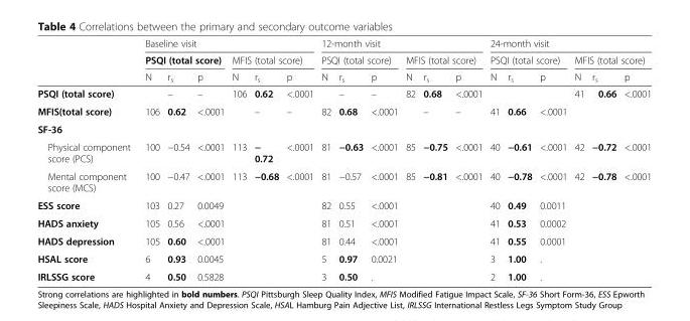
<table><thead><tr><td rowspan="3"></td><td colspan="6">Baseline visit</td><td colspan="6">12-month visit</td><td colspan="6">24-month visit</td></tr><tr><td colspan="3">PSQI (total score)</td><td colspan="3">MFIS (total score)</td><td colspan="3">PSQI (total score)</td><td colspan="3">MFIS (total score)</td><td colspan="3">PSQI (total score)</td><td colspan="3">MFIS (total score)</td></tr><tr><td>N</td><td>r<sub>s</sub></td><td>p</td><td>N</td><td>r<sub>s</sub></td><td>p</td><td>N</td><td>r<sub>s</sub></td><td>p</td><td>N</td><td>r<sub>s</sub></td><td>p</td><td>N</td><td>r<sub>s</sub></td><td>p</td><td>N</td><td>r<sub>s</sub></td><td>p</td></tr></thead><tbody><tr><td>PSQI (total score)</td><td></td><td>–</td><td>–</td><td>106</td><td>0.62</td><td>&lt;.0001</td><td></td><td>–</td><td>–</td><td>82</td><td>0.68</td><td>&lt;.0001</td><td></td><td></td><td></td><td>41</td><td>0.66</td><td>&lt;.0001</td></tr><tr><td>MFIS(total score)</td><td>106</td><td>0.62</td><td>&lt;.0001</td><td></td><td>–</td><td>–</td><td>82</td><td>0.68</td><td>&lt;.0001</td><td></td><td>–</td><td>–</td><td>41</td><td>0.66</td><td>&lt;.0001</td><td></td><td></td><td></td></tr><tr><td colspan="19">SF-36</td></tr><tr><td>Physical component score (PCS)</td><td>100</td><td>−0.54</td><td>&lt;.0001</td><td>113</td><td>− 0.72</td><td>&lt;.0001</td><td>81</td><td>−0.63</td><td>&lt;.0001</td><td>85</td><td>−0.75</td><td>&lt;.0001</td><td>40</td><td>−0.61</td><td>&lt;.0001</td><td>42</td><td>−0.72</td><td>&lt;.0001</td></tr><tr><td>Mental component score (MCS)</td><td>100</td><td>−0.47</td><td>&lt;.0001</td><td>113</td><td>−0.68</td><td>&lt;.0001</td><td>81</td><td>−0.57</td><td>&lt;.0001</td><td>85</td><td>−0.81</td><td>&lt;.0001</td><td>40</td><td>−0.78</td><td>&lt;.0001</td><td>42</td><td>−0.78</td><td>&lt;.0001</td></tr><tr><td>ESS score</td><td>103</td><td>0.27</td><td>0.0049</td><td></td><td></td><td></td><td>82</td><td>0.55</td><td>&lt;.0001</td><td></td><td></td><td></td><td>40</td><td>0.49</td><td>0.0011</td><td></td><td></td><td></td></tr><tr><td>HADS anxiety</td><td>105</td><td>0.56</td><td>&lt;.0001</td><td></td><td></td><td></td><td>81</td><td>0.51</td><td>&lt;.0001</td><td></td><td></td><td></td><td>41</td><td>0.53</td><td>0.0002</td><td></td><td></td><td></td></tr><tr><td>HADS depression</td><td>105</td><td>0.60</td><td>&lt;.0001</td><td></td><td></td><td></td><td>81</td><td>0.44</td><td>&lt;.0001</td><td></td><td></td><td></td><td>41</td><td>0.55</td><td>0.0001</td><td></td><td></td><td></td></tr><tr><td>HSAL score</td><td>6</td><td>0.93</td><td>0.0045</td><td></td><td></td><td></td><td>5</td><td>0.97</td><td>0.0021</td><td></td><td></td><td></td><td>3</td><td>1.00</td><td>.</td><td></td><td></td><td></td></tr><tr><td>IRLSSG score</td><td>4</td><td>0.50</td><td>0.5828</td><td></td><td></td><td></td><td>3</td><td>0.50</td><td>.</td><td></td><td></td><td></td><td>2</td><td>1.00</td><td>.</td><td></td><td></td><td></td></tr></tbody></table>